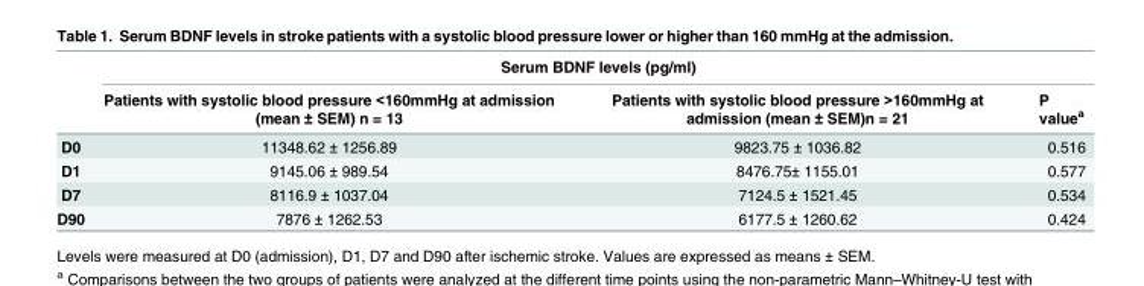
<table><thead><tr><td rowspan="2"></td><td colspan="3">Serum BDNF levels (pg/ml)</td></tr><tr><td>Patients with systolic blood pressure &lt;160mmHg at admission (mean ± SEM) n = 13</td><td>Patients with systolic blood pressure &gt;160mmHg at admission (mean ± SEM)n = 21</td><td>P value<sup>a</sup></td></tr></thead><tbody><tr><td>D0</td><td>11348.62 ± 1256.89</td><td>9823.75 ± 1036.82</td><td>0.516</td></tr><tr><td>D1</td><td>9145.06 ± 989.54</td><td>8476.75± 1155.01</td><td>0.577</td></tr><tr><td>D7</td><td>8116.9 ± 1037.04</td><td>7124.5 ± 1521.45</td><td>0.534</td></tr><tr><td>D90</td><td>7876 ± 1262.53</td><td>6177.5 ± 1260.62</td><td>0.424</td></tr></tbody></table>